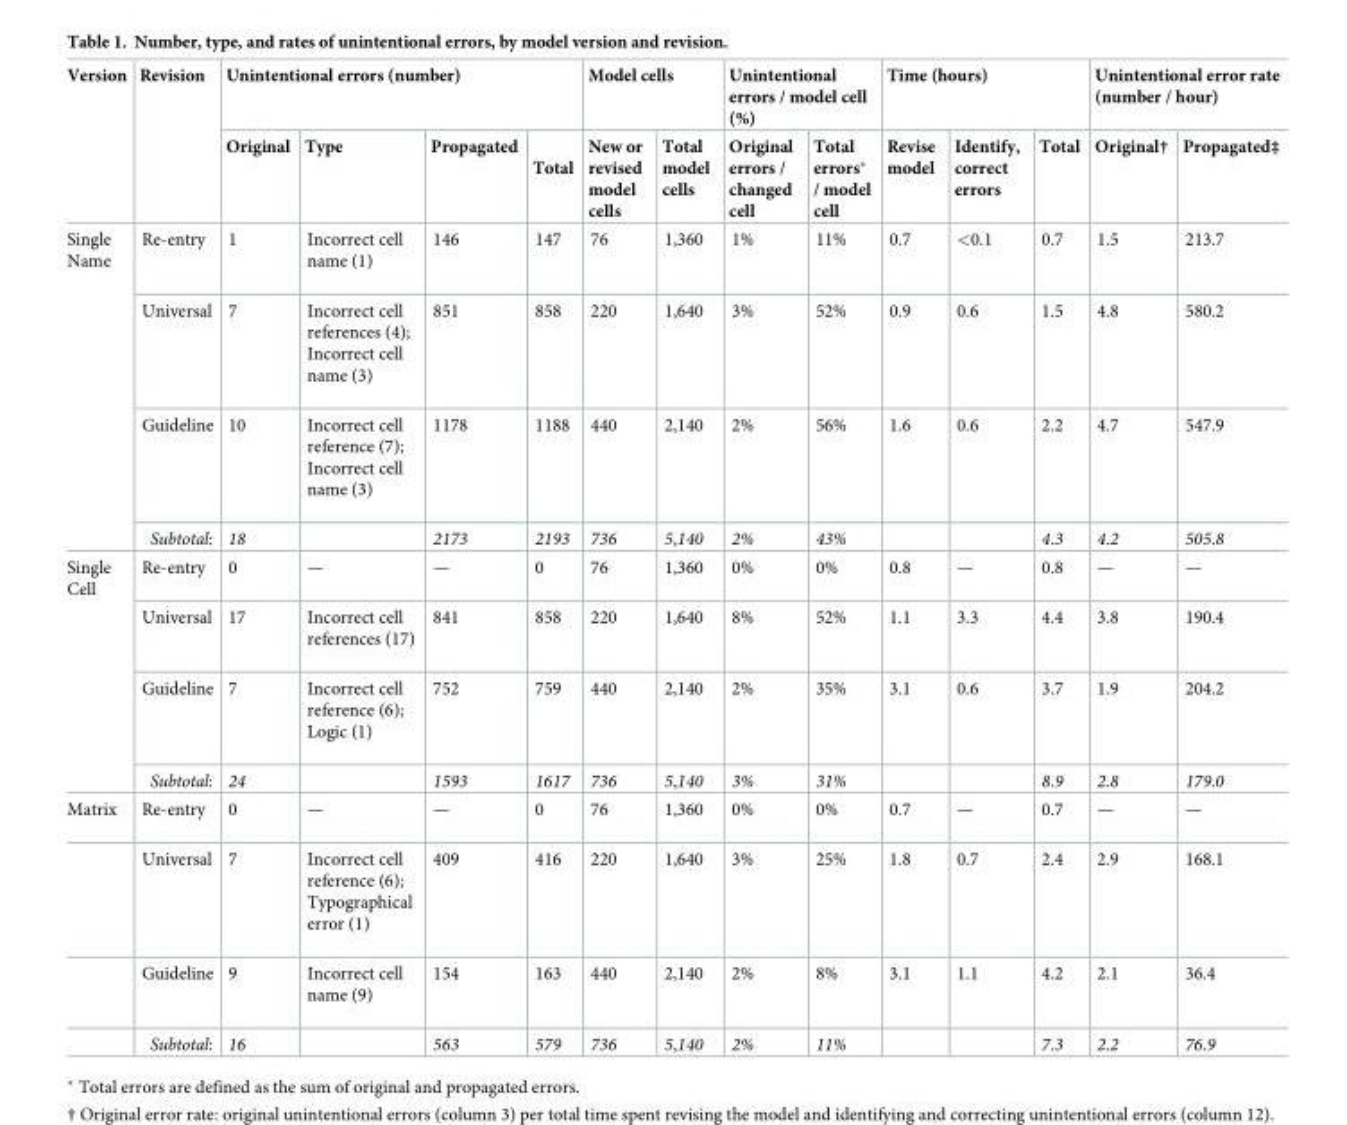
<table><thead><tr><td rowspan="2">Version</td><td rowspan="2">Revision</td><td colspan="4">Unintentional errors (number)</td><td colspan="2">Model cells</td><td colspan="2">Unintentional errors / model cell (%)</td><td colspan="3">Time (hours)</td><td colspan="2">Unintentional error rate (number / hour)</td></tr><tr><td>Original</td><td>Type</td><td>Propagated</td><td>Total</td><td>New or revised model cells</td><td>Total model cells</td><td>Original errors / changed cell</td><td>Total errors* / model cell</td><td>Revise model</td><td>Identify, correct errors</td><td>Total</td><td>Original†</td><td>Propagated‡</td></tr></thead><tbody><tr><td rowspan="4">Single Name</td><td>Re-entry</td><td>1</td><td>Incorrect cell name (1)</td><td>146</td><td>147</td><td>76</td><td>1,360</td><td>1%</td><td>11%</td><td>0.7</td><td>&lt;0.1</td><td>0.7</td><td>1.5</td><td>213.7</td></tr><tr><td>Universal</td><td>7</td><td>Incorrect cell references (4); Incorrect cell name (3)</td><td>851</td><td>858</td><td>220</td><td>1,640</td><td>3%</td><td>52%</td><td>0.9</td><td>0.6</td><td>1.5</td><td>4.8</td><td>580.2</td></tr><tr><td>Guideline</td><td>10</td><td>Incorrect cell reference (7); Incorrect cell name (3)</td><td>1178</td><td>1188</td><td>440</td><td>2,140</td><td>2%</td><td>56%</td><td>1.6</td><td>0.6</td><td>2.2</td><td>4.7</td><td>547.9</td></tr><tr><td>Subtotal:</td><td>18</td><td></td><td>2173</td><td>2193</td><td>736</td><td>5,140</td><td>2%</td><td>43%</td><td></td><td></td><td>4.3</td><td>4.2</td><td>505.8</td></tr><tr><td rowspan="4">Single Cell</td><td>Re-entry</td><td>0</td><td>—</td><td>—</td><td>0</td><td>76</td><td>1,360</td><td>0%</td><td>0%</td><td>0.8</td><td>—</td><td>0.8</td><td>—</td><td>—</td></tr><tr><td>Universal</td><td>17</td><td>Incorrect cell references (17)</td><td>841</td><td>858</td><td>220</td><td>1,640</td><td>8%</td><td>52%</td><td>1.1</td><td>3.3</td><td>4.4</td><td>3.8</td><td>190.4</td></tr><tr><td>Guideline</td><td>7</td><td>Incorrect cell reference (6); Logic (1)</td><td>752</td><td>759</td><td>440</td><td>2,140</td><td>2%</td><td>35%</td><td>3.1</td><td>0.6</td><td>3.7</td><td>1.9</td><td>204.2</td></tr><tr><td>Subtotal:</td><td>24</td><td></td><td>1593</td><td>1617</td><td>736</td><td>5,140</td><td>3%</td><td>31%</td><td></td><td></td><td>8.9</td><td>2.8</td><td>179.0</td></tr><tr><td rowspan="4">Matrix</td><td>Re-entry</td><td>0</td><td>—</td><td>—</td><td>0</td><td>76</td><td>1,360</td><td>0%</td><td>0%</td><td>0.7</td><td>—</td><td>0.7</td><td>—</td><td>—</td></tr><tr><td>Universal</td><td>7</td><td>Incorrect cell reference (6); Typographical error (1)</td><td>409</td><td>416</td><td>220</td><td>1,640</td><td>3%</td><td>25%</td><td>1.8</td><td>0.7</td><td>2.4</td><td>2.9</td><td>168.1</td></tr><tr><td>Guideline</td><td>9</td><td>Incorrect cell name (9)</td><td>154</td><td>163</td><td>440</td><td>2,140</td><td>2%</td><td>8%</td><td>3.1</td><td>1.1</td><td>4.2</td><td>2.1</td><td>36.4</td></tr><tr><td>Subtotal:</td><td>16</td><td></td><td>563</td><td>579</td><td>736</td><td>5,140</td><td>2%</td><td>11%</td><td></td><td></td><td>7.3</td><td>2.2</td><td>76.9</td></tr></tbody></table>